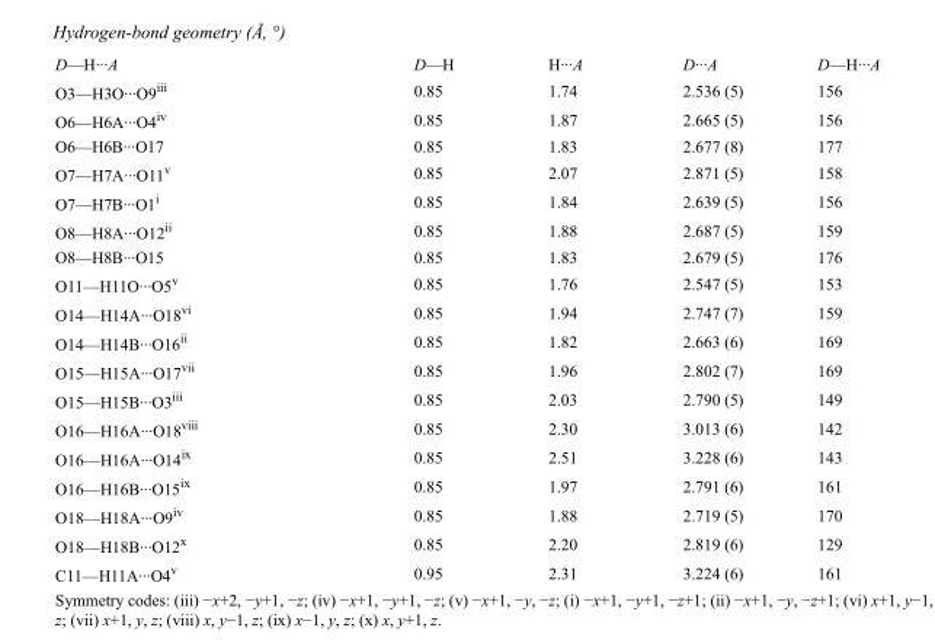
<table><tbody><tr><td>D—H···A</td><td>D—H</td><td>H···A</td><td>D···A</td><td>D—H···A</td></tr><tr><td>O3—H3O···O9<sup>iii</sup></td><td>0.85</td><td>1.74</td><td>2.536 (5)</td><td>156</td></tr><tr><td>O6—H6A···O4<sup>iv</sup></td><td>0.85</td><td>1.87</td><td>2.665 (5)</td><td>156</td></tr><tr><td>O6—H6B···O17</td><td>0.85</td><td>1.83</td><td>2.677 (8)</td><td>177</td></tr><tr><td>O7—H7A···O11<sup>v</sup></td><td>0.85</td><td>2.07</td><td>2.871 (5)</td><td>158</td></tr><tr><td>O7—H7B···O1<sup>i</sup></td><td>0.85</td><td>1.84</td><td>2.639 (5)</td><td>156</td></tr><tr><td>O8—H8A···O12<sup>ii</sup></td><td>0.85</td><td>1.88</td><td>2.687 (5)</td><td>159</td></tr><tr><td>O8—H8B···O15</td><td>0.85</td><td>1.83</td><td>2.679 (5)</td><td>176</td></tr><tr><td>O11—H11O···O5<sup>v</sup></td><td>0.85</td><td>1.76</td><td>2.547 (5)</td><td>153</td></tr><tr><td>O14—H14A···O18<sup>vi</sup></td><td>0.85</td><td>1.94</td><td>2.747 (7)</td><td>159</td></tr><tr><td>O14—H14B···O16<sup>ii</sup></td><td>0.85</td><td>1.82</td><td>2.663 (6)</td><td>169</td></tr><tr><td>O15—H15A···O17<sup>vii</sup></td><td>0.85</td><td>1.96</td><td>2.802 (7)</td><td>169</td></tr><tr><td>O15—H15B···O3<sup>iii</sup></td><td>0.85</td><td>2.03</td><td>2.790 (5)</td><td>149</td></tr><tr><td>O16—H16A···O18<sup>viii</sup></td><td>0.85</td><td>2.30</td><td>3.013 (6)</td><td>142</td></tr><tr><td>O16—H16A···O14<sup>ix</sup></td><td>0.85</td><td>2.51</td><td>3.228 (6)</td><td>143</td></tr><tr><td>O16—H16B···O15<sup>ix</sup></td><td>0.85</td><td>1.97</td><td>2.791 (6)</td><td>161</td></tr><tr><td>O18—H18A···O9<sup>iv</sup></td><td>0.85</td><td>1.88</td><td>2.719 (5)</td><td>170</td></tr><tr><td>O18—H18B···O12<sup>x</sup></td><td>0.85</td><td>2.20</td><td>2.819 (6)</td><td>129</td></tr><tr><td>C11—H11A···O4<sup>v</sup></td><td>0.95</td><td>2.31</td><td>3.224 (6)</td><td>161</td></tr></tbody></table>